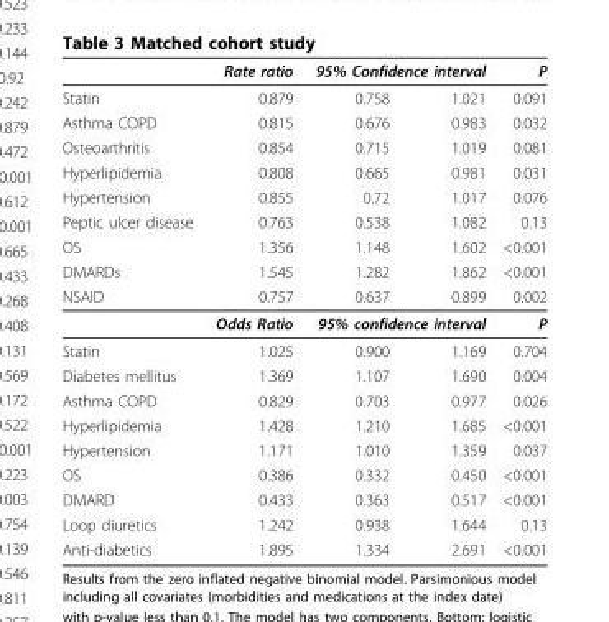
<table><thead><tr><td rowspan="2">Statin</td><td rowspan="2">Rate ratio 0.879</td><td colspan="2">95% Confidence interval</td><td rowspan="2">P 0.091</td></tr><tr><td>0.758</td><td>1.021</td></tr></thead><tbody><tr><td>Asthma COPD</td><td>0.815</td><td>0.676</td><td>0.983</td><td>0.032</td></tr><tr><td>Osteoarthritis</td><td>0.854</td><td>0.715</td><td>1.019</td><td>0.081</td></tr><tr><td>Hyperlipidemia</td><td>0.808</td><td>0.665</td><td>0.981</td><td>0.031</td></tr><tr><td>Hypertension</td><td>0.855</td><td>0.72</td><td>1.017</td><td>0.076</td></tr><tr><td>Peptic ulcer disease</td><td>0.763</td><td>0.538</td><td>1.082</td><td>0.13</td></tr><tr><td>OS</td><td>1.356</td><td>1.148</td><td>1.602</td><td>&lt;0.001</td></tr><tr><td>DMARDs</td><td>1.545</td><td>1.282</td><td>1.862</td><td>&lt;0.001</td></tr><tr><td rowspan="2">NSAID</td><td>0.757</td><td>0.637</td><td>0.899</td><td>0.002</td></tr><tr><td>Odds Ratio</td><td colspan="2">95% confidence interval</td><td>P</td></tr><tr><td>Statin</td><td>1.025</td><td>0.900</td><td>1.169</td><td>0.704</td></tr><tr><td>Diabetes mellitus</td><td>1.369</td><td>1.107</td><td>1.690</td><td>0.004</td></tr><tr><td>Asthma COPD</td><td>0.829</td><td>0.703</td><td>0.977</td><td>0.026</td></tr><tr><td>Hyperlipidemia</td><td>1.428</td><td>1.210</td><td>1.685</td><td>&lt;0.001</td></tr><tr><td>Hypertension</td><td>1.171</td><td>1.010</td><td>1.359</td><td>0.037</td></tr><tr><td>OS</td><td>0.386</td><td>0.332</td><td>0.450</td><td>&lt;0.001</td></tr><tr><td>DMARD</td><td>0.433</td><td>0.363</td><td>0.517</td><td>&lt;0.001</td></tr><tr><td>Loop diuretics</td><td>1.242</td><td>0.938</td><td>1.644</td><td>0.13</td></tr><tr><td>Anti-diabetics</td><td>1.895</td><td>1.334</td><td>2.691</td><td>&lt;0.001</td></tr></tbody></table>